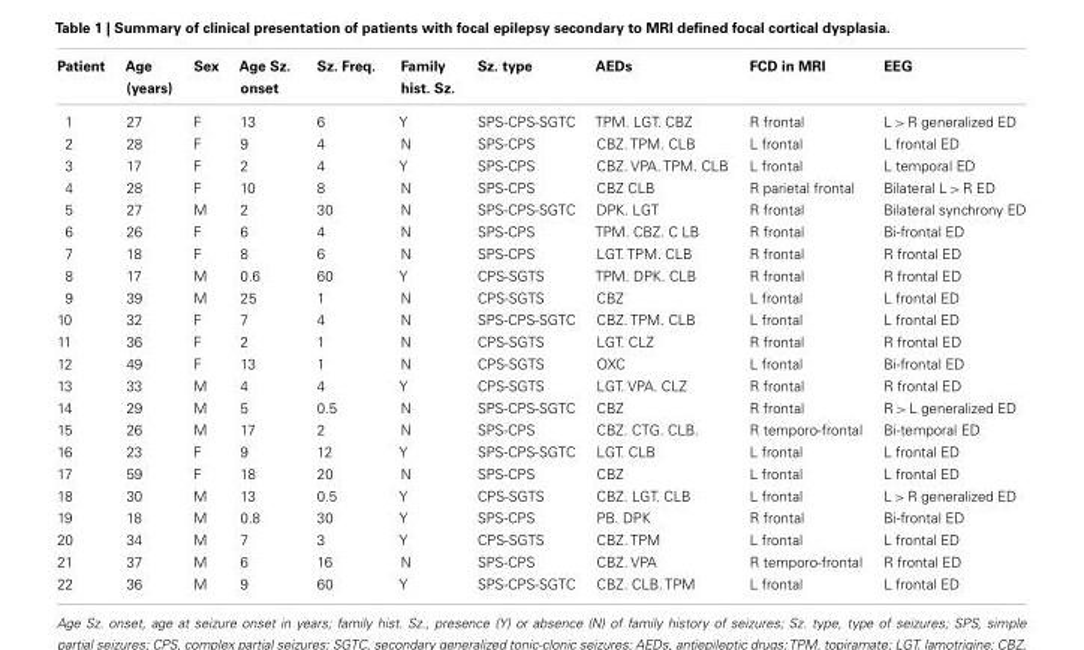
<table><thead><tr><td>Patient</td><td>Age (years)</td><td>Sex</td><td>Age Sz. onset</td><td>Sz. Freq.</td><td>Family hist. Sz.</td><td>Sz. type</td><td>AEDs</td><td>FCD in MRI</td><td>EEG</td></tr></thead><tbody><tr><td>1</td><td>27</td><td>F</td><td>13</td><td>6</td><td>Y</td><td>SPS-CPS-SGTC</td><td>TPM. LGT. CBZ</td><td>R frontal</td><td>L &gt; R generalized ED</td></tr><tr><td>2</td><td>28</td><td>F</td><td>9</td><td>4</td><td>N</td><td>SPS-CPS</td><td>CBZ. TPM. CLB</td><td>L frontal</td><td>L frontal ED</td></tr><tr><td>3</td><td>17</td><td>F</td><td>2</td><td>4</td><td>Y</td><td>SPS-CPS</td><td>CBZ. VPA. TPM. CLB</td><td>L frontal</td><td>L temporal ED</td></tr><tr><td>4</td><td>28</td><td>F</td><td>10</td><td>8</td><td>N</td><td>SPS-CPS</td><td>CBZ CLB</td><td>R parietal frontal</td><td>Bilateral L &gt; R ED</td></tr><tr><td>5</td><td>27</td><td>M</td><td>2</td><td>30</td><td>N</td><td>SPS-CPS-SGTC</td><td>DPK. LGT</td><td>R frontal</td><td>Bilateral synchrony ED</td></tr><tr><td>6</td><td>26</td><td>F</td><td>6</td><td>4</td><td>N</td><td>SPS-CPS</td><td>TPM. CBZ. C LB</td><td>R frontal</td><td>Bi-frontal ED</td></tr><tr><td>7</td><td>18</td><td>F</td><td>8</td><td>6</td><td>N</td><td>SPS-CPS</td><td>LGT. TPM. CLB</td><td>R frontal</td><td>R frontal ED</td></tr><tr><td>8</td><td>17</td><td>M</td><td>0.6</td><td>60</td><td>Y</td><td>CPS-SGTS</td><td>TPM. DPK. CLB</td><td>R frontal</td><td>R frontal ED</td></tr><tr><td>9</td><td>39</td><td>M</td><td>25</td><td>1</td><td>N</td><td>CPS-SGTS</td><td>CBZ</td><td>L frontal</td><td>L frontal ED</td></tr><tr><td>10</td><td>32</td><td>F</td><td>7</td><td>4</td><td>N</td><td>SPS-CPS-SGTC</td><td>CBZ. TPM. CLB</td><td>L frontal</td><td>L frontal ED</td></tr><tr><td>11</td><td>36</td><td>F</td><td>2</td><td>1</td><td>N</td><td>CPS-SGTS</td><td>LGT. CLZ</td><td>R frontal</td><td>R frontal ED</td></tr><tr><td>12</td><td>49</td><td>F</td><td>13</td><td>1</td><td>N</td><td>CPS-SGTS</td><td>OXC</td><td>L frontal</td><td>Bi-frontal ED</td></tr><tr><td>13</td><td>33</td><td>M</td><td>4</td><td>4</td><td>Y</td><td>CPS-SGTS</td><td>LGT. VPA. CLZ</td><td>R frontal</td><td>R frontal ED</td></tr><tr><td>14</td><td>29</td><td>M</td><td>5</td><td>0.5</td><td>N</td><td>SPS-CPS-SGTC</td><td>CBZ</td><td>R frontal</td><td>R &gt; L generalized ED</td></tr><tr><td>15</td><td>26</td><td>M</td><td>17</td><td>2</td><td>N</td><td>SPS-CPS</td><td>CBZ. CTG. CLB.</td><td>R temporo-frontal</td><td>Bi-temporal ED</td></tr><tr><td>16</td><td>23</td><td>F</td><td>9</td><td>12</td><td>Y</td><td>SPS-CPS-SGTC</td><td>LGT. CLB</td><td>L frontal</td><td>L frontal ED</td></tr><tr><td>17</td><td>59</td><td>F</td><td>18</td><td>20</td><td>N</td><td>SPS-CPS</td><td>CBZ</td><td>L frontal</td><td>L frontal ED</td></tr><tr><td>18</td><td>30</td><td>M</td><td>13</td><td>0.5</td><td>Y</td><td>CPS-SGTS</td><td>CBZ. LGT. CLB</td><td>L frontal</td><td>L &gt; R generalized ED</td></tr><tr><td>19</td><td>18</td><td>M</td><td>0.8</td><td>30</td><td>Y</td><td>SPS-CPS</td><td>PB. DPK</td><td>R frontal</td><td>Bi-frontal ED</td></tr><tr><td>20</td><td>34</td><td>M</td><td>7</td><td>3</td><td>Y</td><td>CPS-SGTS</td><td>CBZ. TPM</td><td>L frontal</td><td>L frontal ED</td></tr><tr><td>21</td><td>37</td><td>M</td><td>6</td><td>16</td><td>N</td><td>SPS-CPS</td><td>CBZ. VPA</td><td>R temporo-frontal</td><td>R frontal ED</td></tr><tr><td>22</td><td>36</td><td>M</td><td>9</td><td>60</td><td>Y</td><td>SPS-CPS-SGTC</td><td>CBZ. CLB. TPM</td><td>L frontal</td><td>L frontal ED</td></tr></tbody></table>